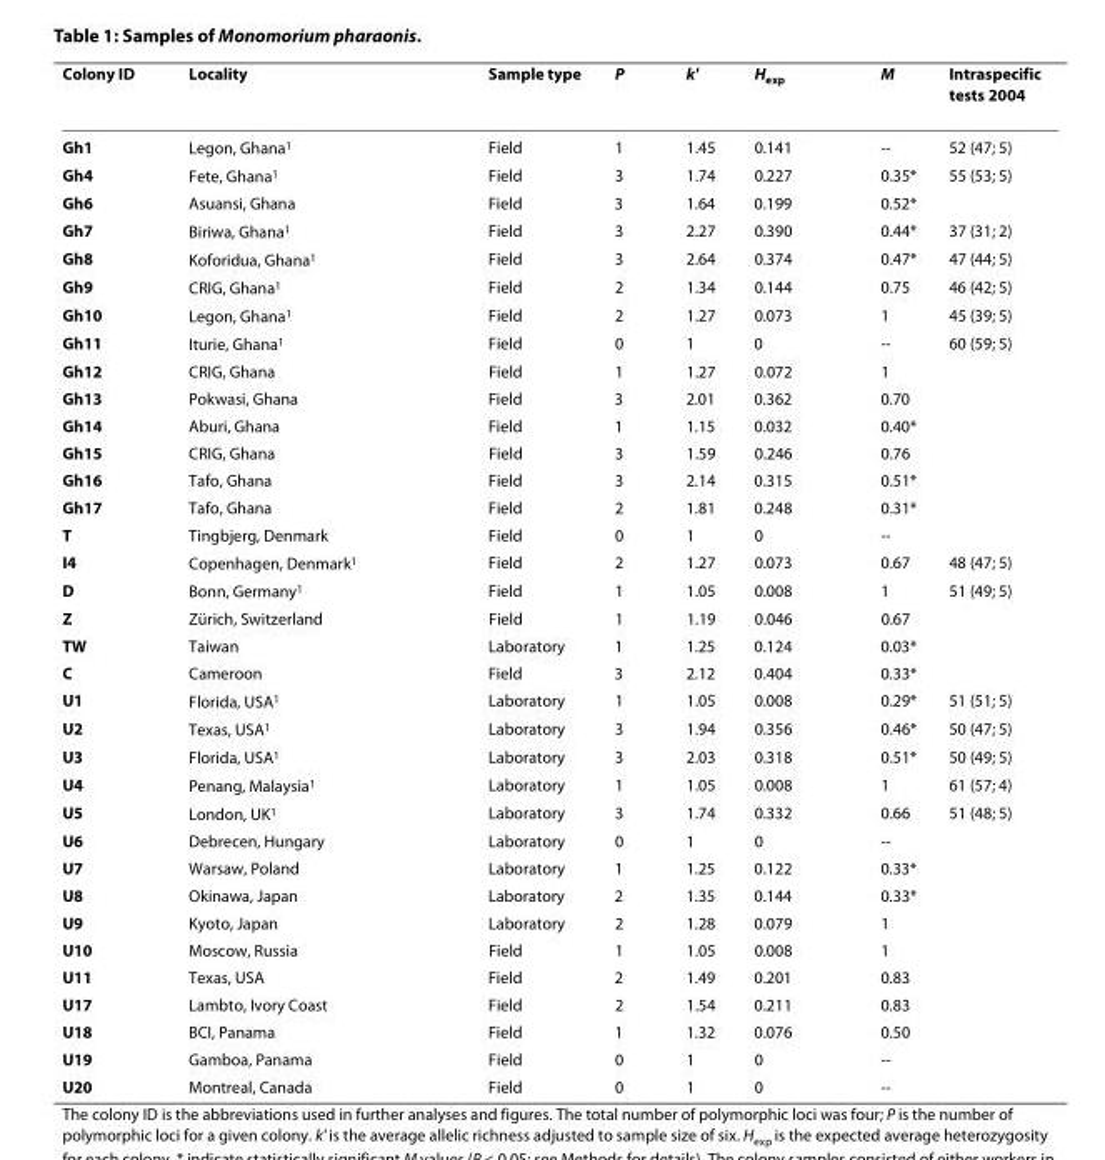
<table><thead><tr><td>Colony ID</td><td>Locality</td><td>Sample type</td><td>P</td><td>k&#x27;</td><td>H<sub>exp</sub></td><td>M</td><td>Intraspecific tests 2004</td></tr></thead><tbody><tr><td>Gh1</td><td>Legon, Ghana<sup>1</sup></td><td>Field</td><td>1</td><td>1.45</td><td>0.141</td><td>--</td><td>52 (47; 5)</td></tr><tr><td>Gh4</td><td>Fete, Ghana<sup>1</sup></td><td>Field</td><td>3</td><td>1.74</td><td>0.227</td><td>0.35*</td><td>55 (53; 5)</td></tr><tr><td>Gh6</td><td>Asuansi, Ghana</td><td>Field</td><td>3</td><td>1.64</td><td>0.199</td><td>0.52*</td><td></td></tr><tr><td>Gh7</td><td>Biriwa, Ghana<sup>1</sup></td><td>Field</td><td>3</td><td>2.27</td><td>0.390</td><td>0.44*</td><td>37 (31; 2)</td></tr><tr><td>Gh8</td><td>Koforidua, Ghana<sup>1</sup></td><td>Field</td><td>3</td><td>2.64</td><td>0.374</td><td>0.47*</td><td>47 (44; 5)</td></tr><tr><td>Gh9</td><td>CRIG, Ghana<sup>1</sup></td><td>Field</td><td>2</td><td>1.34</td><td>0.144</td><td>0.75</td><td>46 (42; 5)</td></tr><tr><td>Gh10</td><td>Legon, Ghana<sup>1</sup></td><td>Field</td><td>2</td><td>1.27</td><td>0.073</td><td>1</td><td>45 (39; 5)</td></tr><tr><td>Gh11</td><td>Iturie, Ghana<sup>1</sup></td><td>Field</td><td>0</td><td>1</td><td>0</td><td>--</td><td>60 (59; 5)</td></tr><tr><td>Gh12</td><td>CRIG, Ghana</td><td>Field</td><td>1</td><td>1.27</td><td>0.072</td><td>1</td><td></td></tr><tr><td>Gh13</td><td>Pokwasi, Ghana</td><td>Field</td><td>3</td><td>2.01</td><td>0.362</td><td>0.70</td><td></td></tr><tr><td>Gh14</td><td>Aburi, Ghana</td><td>Field</td><td>1</td><td>1.15</td><td>0.032</td><td>0.40*</td><td></td></tr><tr><td>Gh15</td><td>CRIG, Ghana</td><td>Field</td><td>3</td><td>1.59</td><td>0.246</td><td>0.76</td><td></td></tr><tr><td>Gh16</td><td>Tafo, Ghana</td><td>Field</td><td>3</td><td>2.14</td><td>0.315</td><td>0.51*</td><td></td></tr><tr><td>Gh17</td><td>Tafo, Ghana</td><td>Field</td><td>2</td><td>1.81</td><td>0.248</td><td>0.31*</td><td></td></tr><tr><td>T</td><td>Tingbjerg, Denmark</td><td>Field</td><td>0</td><td>1</td><td>0</td><td>--</td><td></td></tr><tr><td>I4</td><td>Copenhagen, Denmark<sup>1</sup></td><td>Field</td><td>2</td><td>1.27</td><td>0.073</td><td>0.67</td><td>48 (47; 5)</td></tr><tr><td>D</td><td>Bonn, Germany<sup>1</sup></td><td>Field</td><td>1</td><td>1.05</td><td>0.008</td><td>1</td><td>51 (49; 5)</td></tr><tr><td>Z</td><td>Zürich, Switzerland</td><td>Field</td><td>1</td><td>1.19</td><td>0.046</td><td>0.67</td><td></td></tr><tr><td>TW</td><td>Taiwan</td><td>Laboratory</td><td>1</td><td>1.25</td><td>0.124</td><td>0.03*</td><td></td></tr><tr><td>C</td><td>Cameroon</td><td>Field</td><td>3</td><td>2.12</td><td>0.404</td><td>0.33*</td><td></td></tr><tr><td>U1</td><td>Florida, USA<sup>1</sup></td><td>Laboratory</td><td>1</td><td>1.05</td><td>0.008</td><td>0.29*</td><td>51 (51; 5)</td></tr><tr><td>U2</td><td>Texas, USA<sup>1</sup></td><td>Laboratory</td><td>3</td><td>1.94</td><td>0.356</td><td>0.46*</td><td>50 (47; 5)</td></tr><tr><td>U3</td><td>Florida, USA<sup>1</sup></td><td>Laboratory</td><td>3</td><td>2.03</td><td>0.318</td><td>0.51*</td><td>50 (49; 5)</td></tr><tr><td>U4</td><td>Penang, Malaysia<sup>1</sup></td><td>Laboratory</td><td>1</td><td>1.05</td><td>0.008</td><td>1</td><td>61 (57; 4)</td></tr><tr><td>U5</td><td>London, UK<sup>1</sup></td><td>Laboratory</td><td>3</td><td>1.74</td><td>0.332</td><td>0.66</td><td>51 (48; 5)</td></tr><tr><td>U6</td><td>Debrecen, Hungary</td><td>Laboratory</td><td>0</td><td>1</td><td>0</td><td>--</td><td></td></tr><tr><td>U7</td><td>Warsaw, Poland</td><td>Laboratory</td><td>1</td><td>1.25</td><td>0.122</td><td>0.33*</td><td></td></tr><tr><td>U8</td><td>Okinawa, Japan</td><td>Laboratory</td><td>2</td><td>1.35</td><td>0.144</td><td>0.33*</td><td></td></tr><tr><td>U9</td><td>Kyoto, Japan</td><td>Laboratory</td><td>2</td><td>1.28</td><td>0.079</td><td>1</td><td></td></tr><tr><td>U10</td><td>Moscow, Russia</td><td>Field</td><td>1</td><td>1.05</td><td>0.008</td><td>1</td><td></td></tr><tr><td>U11</td><td>Texas, USA</td><td>Field</td><td>2</td><td>1.49</td><td>0.201</td><td>0.83</td><td></td></tr><tr><td>U17</td><td>Lambto, Ivory Coast</td><td>Field</td><td>2</td><td>1.54</td><td>0.211</td><td>0.83</td><td></td></tr><tr><td>U18</td><td>BCI, Panama</td><td>Field</td><td>1</td><td>1.32</td><td>0.076</td><td>0.50</td><td></td></tr><tr><td>U19</td><td>Gamboa, Panama</td><td>Field</td><td>0</td><td>1</td><td>0</td><td>--</td><td></td></tr><tr><td>U20</td><td>Montreal, Canada</td><td>Field</td><td>0</td><td>1</td><td>0</td><td>--</td><td></td></tr></tbody></table>